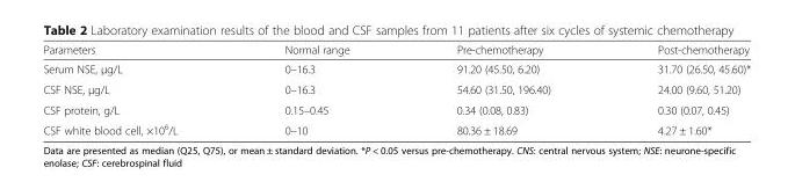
<table><thead><tr><td>Parameters</td><td>Normal range</td><td>Pre-chemotherapy</td><td>Post-chemotherapy</td></tr></thead><tbody><tr><td>Serum NSE, μg/L</td><td>0–16.3</td><td>91.20 (45.50, 6.20)</td><td>31.70 (26.50, 45.60)*</td></tr><tr><td>CSF NSE, μg/L</td><td>0–16.3</td><td>54.60 (31.50, 196.40)</td><td>24.00 (9.60, 51.20)</td></tr><tr><td>CSF protein, g/L</td><td>0.15–0.45</td><td>0.34 (0.08, 0.83)</td><td>0.30 (0.07, 0.45)</td></tr><tr><td>CSF white blood cell, ×10<sup>6</sup>/L</td><td>0–10</td><td>80.36 ± 18.69</td><td>4.27 ± 1.60*</td></tr></tbody></table>